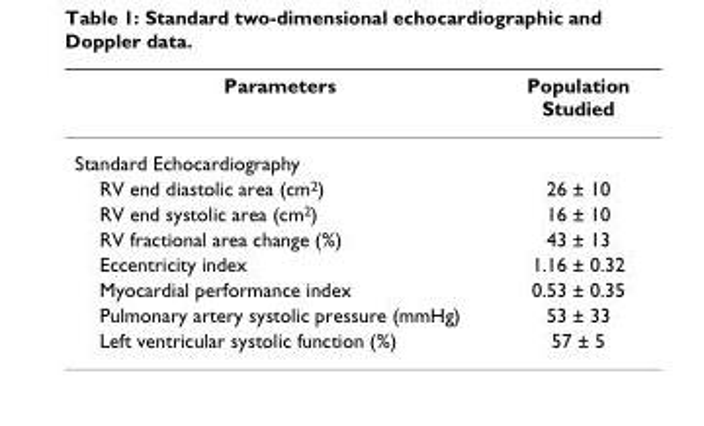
<table><thead><tr><td>Parameters</td><td>Population Studied</td></tr></thead><tbody><tr><td colspan="2">Standard Echocardiography</td></tr><tr><td>RV end diastolic area (cm<sup>2</sup>)</td><td>26 ± 10</td></tr><tr><td>RV end systolic area (cm<sup>2</sup>)</td><td>16 ± 10</td></tr><tr><td>RV fractional area change (%)</td><td>43 ± 13</td></tr><tr><td>Eccentricity index</td><td>1.16 ± 0.32</td></tr><tr><td>Myocardial performance index</td><td>0.53 ± 0.35</td></tr><tr><td>Pulmonary artery systolic pressure (mmHg)</td><td>53 ± 33</td></tr><tr><td>Left ventricular systolic function (%)</td><td>57 ± 5</td></tr></tbody></table>